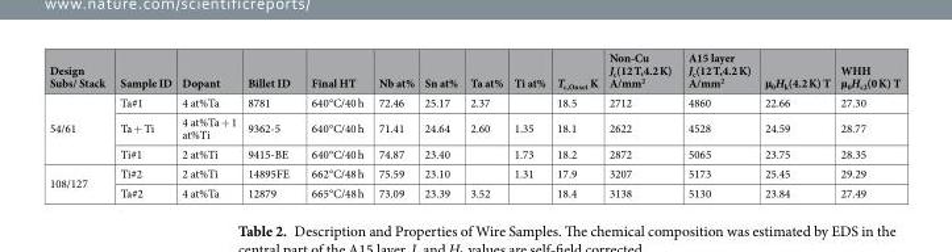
<table><thead><tr><td>Design Subs/ Stack</td><td>Sample ID</td><td>Dopant</td><td>Billet ID</td><td>Final HT</td><td>Nb at%</td><td>Sn at%</td><td>Ta at%</td><td>Ti at%</td><td>T<sub>c,Onset</sub> K</td><td>Non-Cu J<sub>c</sub>(12 T,4.2 K) A/mm<sup>2</sup></td><td>A15 layer J<sub>c</sub>(12 T,4.2 K) A/mm<sup>2</sup></td><td>µ<sub>0</sub>H<sub>k</sub>(4.2 K) T</td><td>WHH µ<sub>0</sub>H<sub>c2</sub>(0 K) T</td></tr></thead><tbody><tr><td rowspan="3">54/61</td><td>Ta#1</td><td>4 at%Ta</td><td>8781</td><td>640 °C/40 h</td><td>72.46</td><td>25.17</td><td>2.37</td><td></td><td>18.5</td><td>2712</td><td>4860</td><td>22.66</td><td>27.30</td></tr><tr><td>Ta + Ti</td><td>4 at%Ta + 1 at%Ti</td><td>9362-5</td><td>640 °C/40 h</td><td>71.41</td><td>24.64</td><td>2.60</td><td>1.35</td><td>18.1</td><td>2622</td><td>4528</td><td>24.59</td><td>28.77</td></tr><tr><td>Ti#1</td><td>2 at%Ti</td><td>9415-BE</td><td>640 °C/40 h</td><td>74.87</td><td>23.40</td><td></td><td>1.73</td><td>18.2</td><td>2872</td><td>5065</td><td>23.75</td><td>28.35</td></tr><tr><td rowspan="2">108/127</td><td>Ti#2</td><td>2 at%Ti</td><td>14895FE</td><td>662 °C/48 h</td><td>75.59</td><td>23.10</td><td></td><td>1.31</td><td>17.9</td><td>3207</td><td>5173</td><td>25.45</td><td>29.29</td></tr><tr><td>Ta#2</td><td>4 at%Ta</td><td>12879</td><td>665 °C/48 h</td><td>73.09</td><td>23.39</td><td>3.52</td><td></td><td>18.4</td><td>3138</td><td>5130</td><td>23.84</td><td>27.49</td></tr></tbody></table>